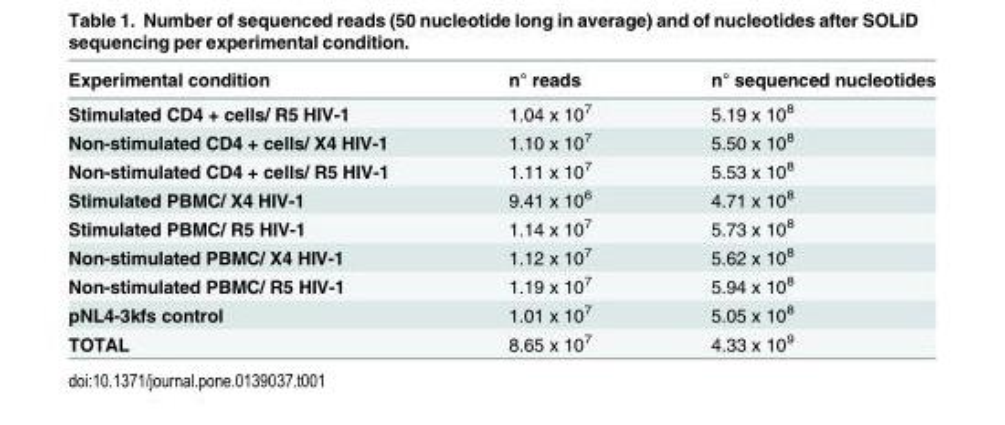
<table><thead><tr><td>Experimental condition</td><td>n° reads</td><td>n° sequenced nucleotides</td></tr></thead><tbody><tr><td>Stimulated CD4 + cells/ R5 HIV-1</td><td>1.04 x 10<sup>7</sup></td><td>5.19 x 10<sup>8</sup></td></tr><tr><td>Non-stimulated CD4 + cells/ X4 HIV-1</td><td>1.10 x 10<sup>7</sup></td><td>5.50 x 10<sup>8</sup></td></tr><tr><td>Non-stimulated CD4 + cells/ R5 HIV-1</td><td>1.11 x 10<sup>7</sup></td><td>5.53 x 10<sup>8</sup></td></tr><tr><td>Stimulated PBMC/ X4 HIV-1</td><td>9.41 x 10<sup>6</sup></td><td>4.71 x 10<sup>8</sup></td></tr><tr><td>Stimulated PBMC/ R5 HIV-1</td><td>1.14 x 10<sup>7</sup></td><td>5.73 x 10<sup>8</sup></td></tr><tr><td>Non-stimulated PBMC/ X4 HIV-1</td><td>1.12 x 10<sup>7</sup></td><td>5.62 x 10<sup>8</sup></td></tr><tr><td>Non-stimulated PBMC/ R5 HIV-1</td><td>1.19 x 10<sup>7</sup></td><td>5.94 x 10<sup>8</sup></td></tr><tr><td>pNL4-3kfs control</td><td>1.01 x 10<sup>7</sup></td><td>5.05 x 10<sup>8</sup></td></tr><tr><td>TOTAL</td><td>8.65 x 10<sup>7</sup></td><td>4.33 x 10<sup>9</sup></td></tr></tbody></table>